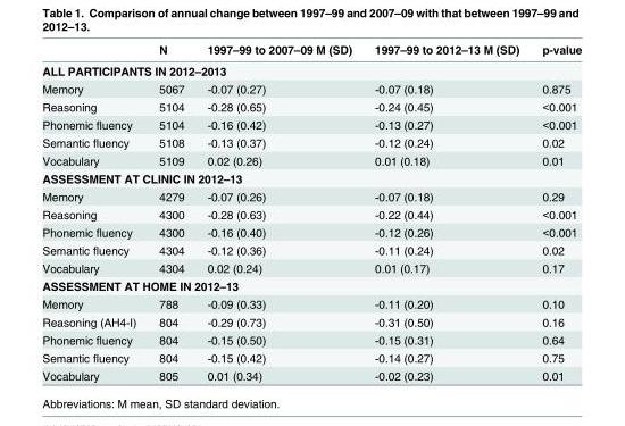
<table><thead><tr><td></td><td>N</td><td>1997–99 to 2007–09 M (SD)</td><td>1997–99 to 2012–13 M (SD)</td><td>p-value</td></tr></thead><tbody><tr><td colspan="5">ALL PARTICIPANTS IN 2012–2013</td></tr><tr><td>Memory</td><td>5067</td><td>-0.07 (0.27)</td><td>-0.07 (0.18)</td><td>0.875</td></tr><tr><td>Reasoning</td><td>5104</td><td>-0.28 (0.65)</td><td>-0.24 (0.45)</td><td>&lt;0.001</td></tr><tr><td>Phonemic fluency</td><td>5104</td><td>-0.16 (0.42)</td><td>-0.13 (0.27)</td><td>&lt;0.001</td></tr><tr><td>Semantic fluency</td><td>5108</td><td>-0.13 (0.37)</td><td>-0.12 (0.24)</td><td>0.02</td></tr><tr><td>Vocabulary</td><td>5109</td><td>0.02 (0.26)</td><td>0.01 (0.18)</td><td>0.01</td></tr><tr><td colspan="5">ASSESSMENT AT CLINIC IN 2012–13</td></tr><tr><td>Memory</td><td>4279</td><td>-0.07 (0.26)</td><td>-0.07 (0.18)</td><td>0.29</td></tr><tr><td>Reasoning</td><td>4300</td><td>-0.28 (0.63)</td><td>-0.22 (0.44)</td><td>&lt;0.001</td></tr><tr><td>Phonemic fluency</td><td>4300</td><td>-0.16 (0.40)</td><td>-0.12 (0.26)</td><td>&lt;0.001</td></tr><tr><td>Semantic fluency</td><td>4304</td><td>-0.12 (0.36)</td><td>-0.11 (0.24)</td><td>0.02</td></tr><tr><td>Vocabulary</td><td>4304</td><td>0.02 (0.24)</td><td>0.01 (0.17)</td><td>0.17</td></tr><tr><td colspan="5">ASSESSMENT AT HOME IN 2012–13</td></tr><tr><td>Memory</td><td>788</td><td>-0.09 (0.33)</td><td>-0.11 (0.20)</td><td>0.10</td></tr><tr><td>Reasoning (AH4-I)</td><td>804</td><td>-0.29 (0.73)</td><td>-0.31 (0.50)</td><td>0.16</td></tr><tr><td>Phonemic fluency</td><td>804</td><td>-0.15 (0.50)</td><td>-0.15 (0.31)</td><td>0.64</td></tr><tr><td>Semantic fluency</td><td>804</td><td>-0.15 (0.42)</td><td>-0.14 (0.27)</td><td>0.75</td></tr><tr><td>Vocabulary</td><td>805</td><td>0.01 (0.34)</td><td>-0.02 (0.23)</td><td>0.01</td></tr></tbody></table>